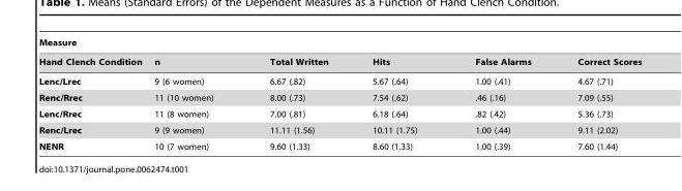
<table><thead><tr><td colspan="6">Measure</td></tr><tr><td>Hand Clench Condition</td><td>n</td><td>Total Written</td><td>Hits</td><td>False Alarms</td><td>Correct Scores</td></tr></thead><tbody><tr><td>Lenc/Lrec</td><td>9 (6 women)</td><td>6.67 (.82)</td><td>5.67 (.64)</td><td>1.00 (.41)</td><td>4.67 (.71)</td></tr><tr><td>Renc/Rrec</td><td>11 (10 women)</td><td>8.00 (.73)</td><td>7.54 (.62)</td><td>.46 (.16)</td><td>7.09 (.55)</td></tr><tr><td>Lenc/Rrec</td><td>11 (8 women)</td><td>7.00 (.81)</td><td>6.18 (.64)</td><td>.82 (.42)</td><td>5.36 (.73)</td></tr><tr><td>Renc/Lrec</td><td>9 (9 women)</td><td>11.11 (1.56)</td><td>10.11 (1.75)</td><td>1.00 (.44)</td><td>9.11 (2.02)</td></tr><tr><td>NENR</td><td>10 (7 women)</td><td>9.60 (1.33)</td><td>8.60 (1.33)</td><td>1.00 (.39)</td><td>7.60 (1.44)</td></tr></tbody></table>